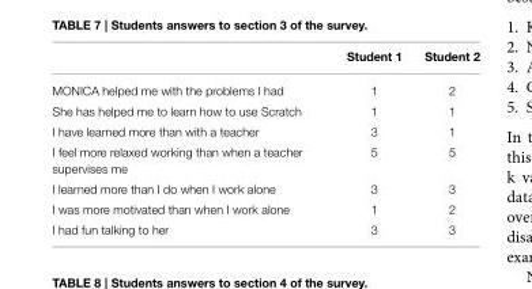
<table><thead><tr><td></td><td>Student 1</td><td>Student 2</td></tr></thead><tbody><tr><td>MONICA helped me with the problems I had</td><td>1</td><td>2</td></tr><tr><td>She has helped me to learn how to use Scratch</td><td>1</td><td>1</td></tr><tr><td>I have learned more than with a teacher</td><td>3</td><td>1</td></tr><tr><td>I feel more relaxed working than when a teacher supervises me</td><td>5</td><td>5</td></tr><tr><td>I learned more than I do when I work alone</td><td>3</td><td>3</td></tr><tr><td>I was more motivated than when I work alone</td><td>1</td><td>2</td></tr><tr><td>I had fun talking to her</td><td>3</td><td>3</td></tr></tbody></table>